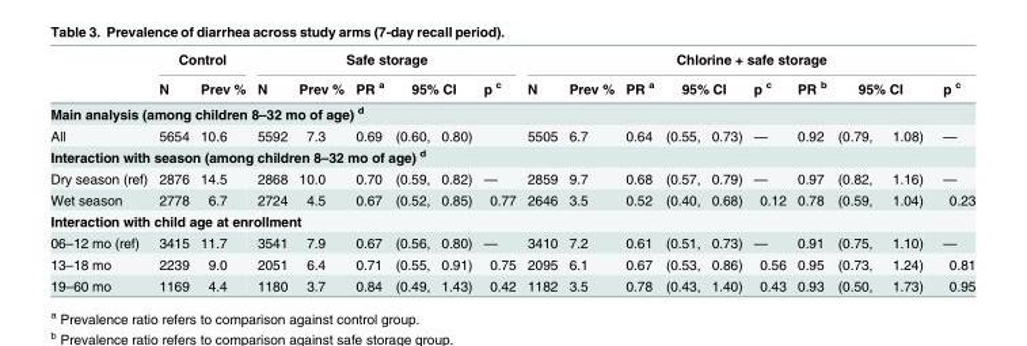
<table><thead><tr><td rowspan="2"></td><td colspan="2">Control</td><td colspan="6">Safe storage</td><td colspan="10">Chlorine + safe storage</td></tr><tr><td>N</td><td>Prev %</td><td>N</td><td>Prev %</td><td>PR <sup>a</sup></td><td colspan="2">95% CI</td><td>p <sup>c</sup></td><td>N</td><td>Prev %</td><td>PR <sup>a</sup></td><td colspan="2">95% CI</td><td>p <sup>c</sup></td><td>PR <sup>b</sup></td><td colspan="2">95% CI</td><td>p <sup>c</sup></td></tr><tr><td colspan="19">Main analysis (among children 8–32 mo of age) <sup>d</sup></td></tr><tr><td>All</td><td>5654</td><td>10.6</td><td>5592</td><td>7.3</td><td>0.69</td><td>(0.60,</td><td>0.80)</td><td></td><td>5505</td><td>6.7</td><td>0.64</td><td>(0.55,</td><td>0.73)</td><td>—</td><td>0.92</td><td>(0.79,</td><td>1.08)</td><td>—</td></tr></thead><tbody><tr><td colspan="19">Interaction with season (among children 8–32 mo of age) <sup>d</sup></td></tr><tr><td>Dry season (ref)</td><td>2876</td><td>14.5</td><td>2868</td><td>10.0</td><td>0.70</td><td>(0.59,</td><td>0.82)</td><td>—</td><td>2859</td><td>9.7</td><td>0.68</td><td>(0.57,</td><td>0.79)</td><td>—</td><td>0.97</td><td>(0.82,</td><td>1.16)</td><td>—</td></tr><tr><td>Wet season</td><td>2778</td><td>6.7</td><td>2724</td><td>4.5</td><td>0.67</td><td>(0.52,</td><td>0.85)</td><td>0.77</td><td>2646</td><td>3.5</td><td>0.52</td><td>(0.40,</td><td>0.68)</td><td>0.12</td><td>0.78</td><td>(0.59,</td><td>1.04)</td><td>0.23</td></tr><tr><td colspan="19">Interaction with child age at enrollment</td></tr><tr><td>06–12 mo (ref)</td><td>3415</td><td>11.7</td><td>3541</td><td>7.9</td><td>0.67</td><td>(0.56,</td><td>0.80)</td><td>—</td><td>3410</td><td>7.2</td><td>0.61</td><td>(0.51,</td><td>0.73)</td><td>—</td><td>0.91</td><td>(0.75,</td><td>1.10)</td><td>—</td></tr><tr><td>13–18 mo</td><td>2239</td><td>9.0</td><td>2051</td><td>6.4</td><td>0.71</td><td>(0.55,</td><td>0.91)</td><td>0.75</td><td>2095</td><td>6.1</td><td>0.67</td><td>(0.53,</td><td>0.86)</td><td>0.56</td><td>0.95</td><td>(0.73,</td><td>1.24)</td><td>0.81</td></tr><tr><td>19–60 mo</td><td>1169</td><td>4.4</td><td>1180</td><td>3.7</td><td>0.84</td><td>(0.49,</td><td>1.43)</td><td>0.42</td><td>1182</td><td>3.5</td><td>0.78</td><td>(0.43,</td><td>1.40)</td><td>0.43</td><td>0.93</td><td>(0.50,</td><td>1.73)</td><td>0.95</td></tr></tbody></table>